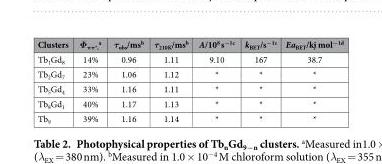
<table><thead><tr><td>Clusters</td><td>Φ<sub>ππ*,</sub> <sup>a</sup></td><td>τ<sub>obs</sub>/ms<sup>b</sup></td><td>τ<sub>210K</sub>/ms<sup>b</sup></td><td>A/10<sup>8</sup> s<sup>−1c</sup></td><td>k<sub>BET</sub>/s<sup>−1c</sup></td><td>Ea<sub>BET</sub>/kj mol<sup>−1d</sup></td></tr></thead><tbody><tr><td>Tb<sub>1</sub>Gd<sub>8</sub></td><td>14%</td><td>0.96</td><td>1.11</td><td>9.10</td><td>167</td><td>38.7</td></tr><tr><td>Tb<sub>2</sub>Gd<sub>7</sub></td><td>23%</td><td>1.06</td><td>1.12</td><td>*</td><td>*</td><td>*</td></tr><tr><td>Tb<sub>5</sub>Gd<sub>4</sub></td><td>33%</td><td>1.16</td><td>1.11</td><td>*</td><td>*</td><td>*</td></tr><tr><td>Tb<sub>8</sub>Gd<sub>1</sub></td><td>40%</td><td>1.17</td><td>1.13</td><td>*</td><td>*</td><td>*</td></tr><tr><td>Tb<sub>9</sub></td><td>39%</td><td>1.16</td><td>1.14</td><td>*</td><td>*</td><td>*</td></tr></tbody></table>